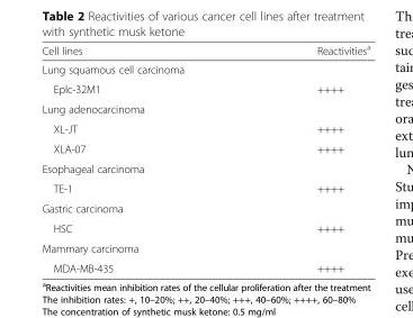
<table><thead><tr><td>Cell lines</td><td>Reactivities<sup>a</sup></td></tr></thead><tbody><tr><td colspan="2">Lung squamous cell carcinoma</td></tr><tr><td>Eplc-32M1</td><td>++++</td></tr><tr><td colspan="2">Lung adenocarcinoma</td></tr><tr><td>XL-JT</td><td>++++</td></tr><tr><td>XLA-07</td><td>++++</td></tr><tr><td colspan="2">Esophageal carcinoma</td></tr><tr><td>TE-1</td><td>++++</td></tr><tr><td colspan="2">Gastric carcinoma</td></tr><tr><td>HSC</td><td>++++</td></tr><tr><td colspan="2">Mammary carcinoma</td></tr><tr><td>MDA-MB-435</td><td>++++</td></tr></tbody></table>